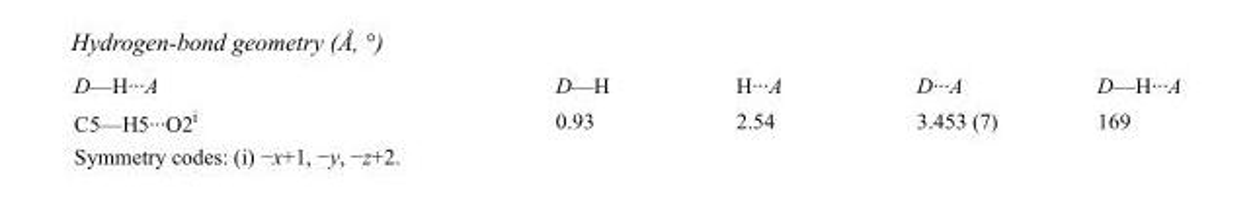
<table><tbody><tr><td>D—H···A</td><td>D—H</td><td>H···A</td><td>D···A</td><td>D—H···A</td></tr><tr><td>C5—H5···O2<sup>i</sup></td><td>0.93</td><td>2.54</td><td>3.453 (7)</td><td>169</td></tr></tbody></table>